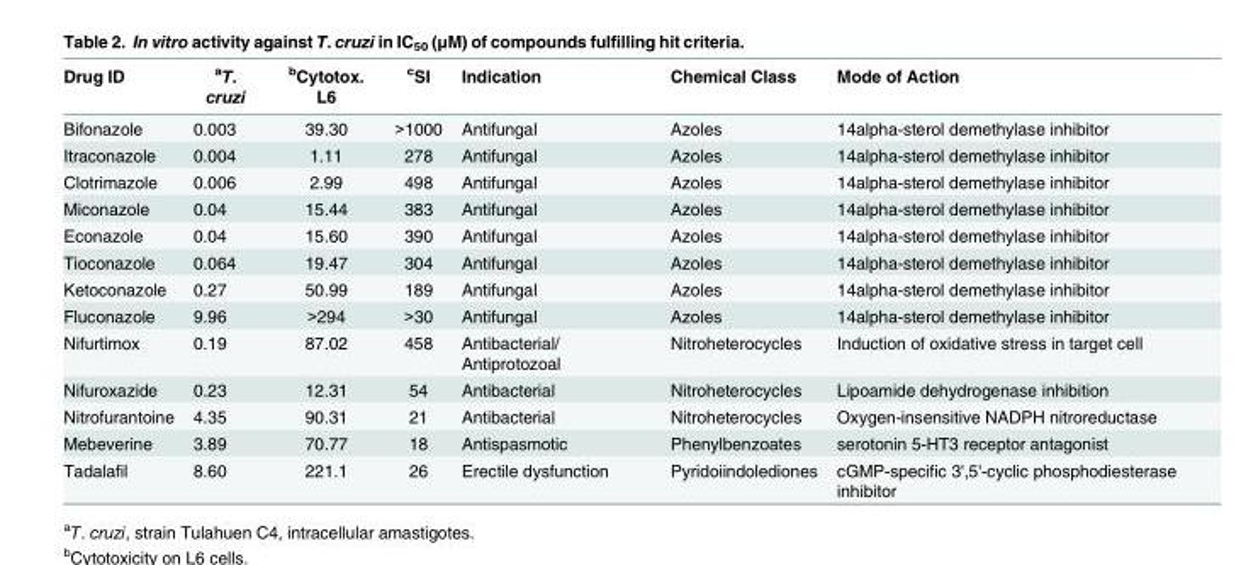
<table><thead><tr><td>Drug ID</td><td><sup>a</sup>T. cruzi</td><td><sup>b</sup>Cytotox. L6</td><td><sup>c</sup>SI</td><td>Indication</td><td>Chemical Class</td><td>Mode of Action</td></tr></thead><tbody><tr><td>Bifonazole</td><td>0.003</td><td>39.30</td><td>&gt;1000</td><td>Antifungal</td><td>Azoles</td><td>14alpha-sterol demethylase inhibitor</td></tr><tr><td>Itraconazole</td><td>0.004</td><td>1.11</td><td>278</td><td>Antifungal</td><td>Azoles</td><td>14alpha-sterol demethylase inhibitor</td></tr><tr><td>Clotrimazole</td><td>0.006</td><td>2.99</td><td>498</td><td>Antifungal</td><td>Azoles</td><td>14alpha-sterol demethylase inhibitor</td></tr><tr><td>Miconazole</td><td>0.04</td><td>15.44</td><td>383</td><td>Antifungal</td><td>Azoles</td><td>14alpha-sterol demethylase inhibitor</td></tr><tr><td>Econazole</td><td>0.04</td><td>15.60</td><td>390</td><td>Antifungal</td><td>Azoles</td><td>14alpha-sterol demethylase inhibitor</td></tr><tr><td>Tioconazole</td><td>0.064</td><td>19.47</td><td>304</td><td>Antifungal</td><td>Azoles</td><td>14alpha-sterol demethylase inhibitor</td></tr><tr><td>Ketoconazole</td><td>0.27</td><td>50.99</td><td>189</td><td>Antifungal</td><td>Azoles</td><td>14alpha-sterol demethylase inhibitor</td></tr><tr><td>Fluconazole</td><td>9.96</td><td>&gt;294</td><td>&gt;30</td><td>Antifungal</td><td>Azoles</td><td>14alpha-sterol demethylase inhibitor</td></tr><tr><td>Nifurtimox</td><td>0.19</td><td>87.02</td><td>458</td><td>Antibacterial/ Antiprotozoal</td><td>Nitroheterocycles</td><td>Induction of oxidative stress in target cell</td></tr><tr><td>Nifuroxazide</td><td>0.23</td><td>12.31</td><td>54</td><td>Antibacterial</td><td>Nitroheterocycles</td><td>Lipoamide dehydrogenase inhibition</td></tr><tr><td>Nitrofurantoine</td><td>4.35</td><td>90.31</td><td>21</td><td>Antibacterial</td><td>Nitroheterocycles</td><td>Oxygen-insensitive NADPH nitroreductase</td></tr><tr><td>Mebeverine</td><td>3.89</td><td>70.77</td><td>18</td><td>Antispasmotic</td><td>Phenylbenzoates</td><td>serotonin 5-HT3 receptor antagonist</td></tr><tr><td>Tadalafil</td><td>8.60</td><td>221.1</td><td>26</td><td>Erectile dysfunction</td><td>Pyridoiindolediones</td><td>cGMP-specific 3&#x27;,5&#x27;-cyclic phosphodiesterase inhibitor</td></tr></tbody></table>